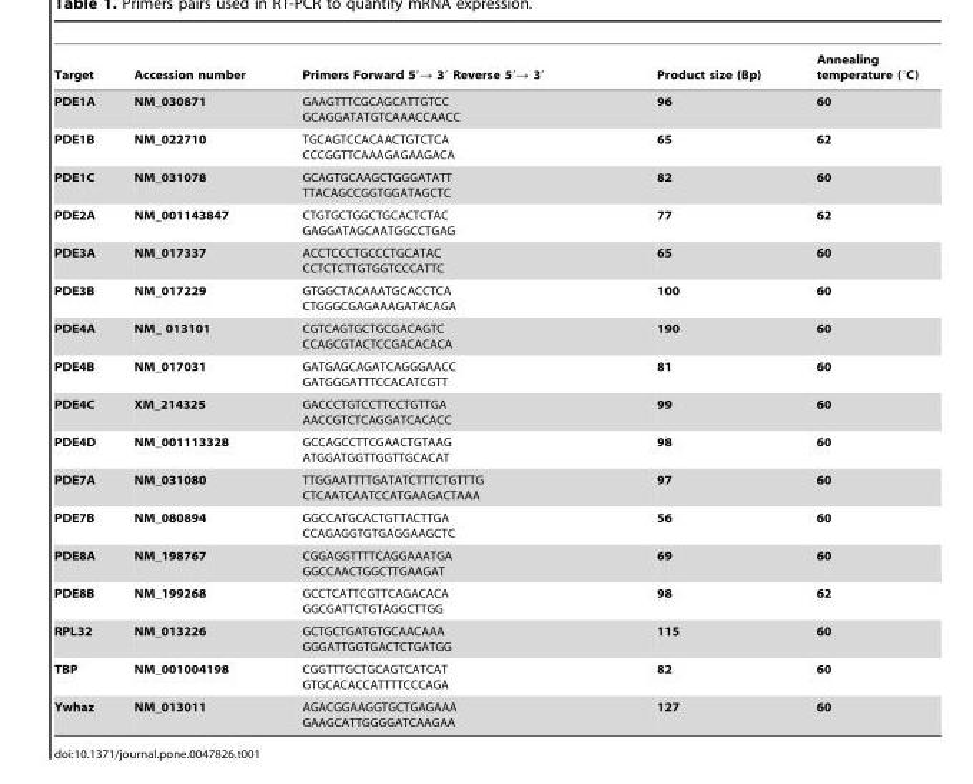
<table><thead><tr><td>Target</td><td>Accession number</td><td>Primers Forward 5′→ 3′ Reverse 5′→ 3′</td><td>Product size (Bp)</td><td>Annealing temperature (°C)</td></tr></thead><tbody><tr><td>PDE1A</td><td>NM_030871</td><td>GAAGTTTCGCAGCATTGTCC GCAGGATATGTCAAACCAACC</td><td>96</td><td>60</td></tr><tr><td>PDE1B</td><td>NM_022710</td><td>TGCAGTCCACAACTGTCTCA CCCGGTTCAAAGAGAAGACA</td><td>65</td><td>62</td></tr><tr><td>PDE1C</td><td>NM_031078</td><td>GCAGTGCAAGCTGGGATATT TTACAGCCGGTGGATAGCTC</td><td>82</td><td>60</td></tr><tr><td>PDE2A</td><td>NM_001143847</td><td>CTGTGCTGGCTGCACTCTAC GAGGATAGCAATGGCCTGAG</td><td>77</td><td>62</td></tr><tr><td>PDE3A</td><td>NM_017337</td><td>ACCTCCCTGCCCTGCATAC CCTCTCTTGTGGTCCCATTC</td><td>65</td><td>60</td></tr><tr><td>PDE3B</td><td>NM_017229</td><td>GTGGCTACAAATGCACCTCA CTGGGCGAGAAAGATACAGA</td><td>100</td><td>60</td></tr><tr><td>PDE4A</td><td>NM_ 013101</td><td>CGTCAGTGCTGCGACAGTC CCAGCGTACTCCGACACACA</td><td>190</td><td>60</td></tr><tr><td>PDE4B</td><td>NM_017031</td><td>GATGAGCAGATCAGGGAACC GATGGGATTTCCACATCGTT</td><td>81</td><td>60</td></tr><tr><td>PDE4C</td><td>XM_214325</td><td>GACCCTGTCCTTCCTGTTGA AACCGTCTCAGGATCACACC</td><td>99</td><td>60</td></tr><tr><td>PDE4D</td><td>NM_001113328</td><td>GCCAGCCTTCGAACTGTAAG ATGGATGGTTGGTTGCACAT</td><td>98</td><td>60</td></tr><tr><td>PDE7A</td><td>NM_031080</td><td>TTGGAATTTTGATATCTTTCTGTTTG CTCAATCAATCCATGAAGACTAAA</td><td>97</td><td>60</td></tr><tr><td>PDE7B</td><td>NM_080894</td><td>GGCCATGCACTGTTACTTGA CCAGAGGTGTGAGGAAGCTC</td><td>56</td><td>60</td></tr><tr><td>PDE8A</td><td>NM_198767</td><td>CGGAGGTTTTCAGGAAATGA GGCCAACTGGCTTGAAGAT</td><td>69</td><td>60</td></tr><tr><td>PDE8B</td><td>NM_199268</td><td>GCCTCATTCGTTCAGACACA GGCGATTCTGTAGGCTTGG</td><td>98</td><td>62</td></tr><tr><td>RPL32</td><td>NM_013226</td><td>GCTGCTGATGTGCAACAAA GGGATTGGTGACTCTGATGG</td><td>115</td><td>60</td></tr><tr><td>TBP</td><td>NM_001004198</td><td>CGGTTTGCTGCAGTCATCAT GTGCACACCATTTTCCCAGA</td><td>82</td><td>60</td></tr><tr><td>Ywhaz</td><td>NM_013011</td><td>AGACGGAAGGTGCTGAGAAA GAAGCATTGGGGATCAAGAA</td><td>127</td><td>60</td></tr></tbody></table>